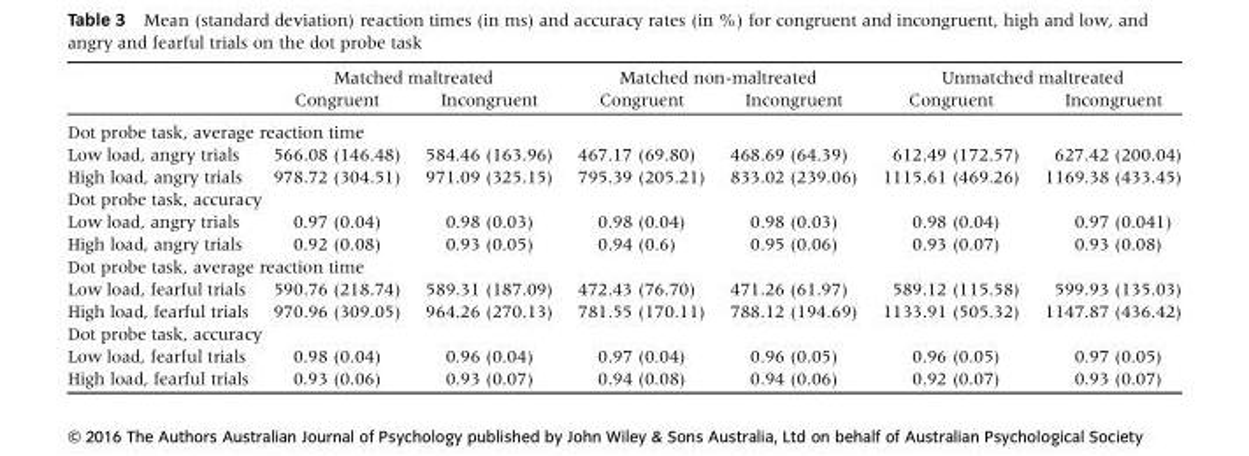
<table><thead><tr><td rowspan="2"></td><td colspan="2">Matched maltreated</td><td colspan="2">Matched non-maltreated</td><td colspan="2">Unmatched maltreated</td></tr><tr><td>Congruent</td><td>Incongruent</td><td>Congruent</td><td>Incongruent</td><td>Congruent</td><td>Incongruent</td></tr></thead><tbody><tr><td colspan="7">Dot probe task, average reaction time</td></tr><tr><td>Low load, angry trials</td><td>566.08 (146.48)</td><td>584.46 (163.96)</td><td>467.17 (69.80)</td><td>468.69 (64.39)</td><td>612.49 (172.57)</td><td>627.42 (200.04)</td></tr><tr><td>High load, angry trials</td><td>978.72 (304.51)</td><td>971.09 (325.15)</td><td>795.39 (205.21)</td><td>833.02 (239.06)</td><td>1115.61 (469.26)</td><td>1169.38 (433.45)</td></tr><tr><td colspan="7">Dot probe task, accuracy</td></tr><tr><td>Low load, angry trials</td><td>0.97 (0.04)</td><td>0.98 (0.03)</td><td>0.98 (0.04)</td><td>0.98 (0.03)</td><td>0.98 (0.04)</td><td>0.97 (0.041)</td></tr><tr><td>High load, angry trials</td><td>0.92 (0.08)</td><td>0.93 (0.05)</td><td>0.94 (0.6)</td><td>0.95 (0.06)</td><td>0.93 (0.07)</td><td>0.93 (0.08)</td></tr><tr><td colspan="7">Dot probe task, average reaction time</td></tr><tr><td>Low load, fearful trials</td><td>590.76 (218.74)</td><td>589.31 (187.09)</td><td>472.43 (76.70)</td><td>471.26 (61.97)</td><td>589.12 (115.58)</td><td>599.93 (135.03)</td></tr><tr><td>High load, fearful trials</td><td>970.96 (309.05)</td><td>964.26 (270.13)</td><td>781.55 (170.11)</td><td>788.12 (194.69)</td><td>1133.91 (505.32)</td><td>1147.87 (436.42)</td></tr><tr><td colspan="7">Dot probe task, accuracy</td></tr><tr><td>Low load, fearful trials</td><td>0.98 (0.04)</td><td>0.96 (0.04)</td><td>0.97 (0.04)</td><td>0.96 (0.05)</td><td>0.96 (0.05)</td><td>0.97 (0.05)</td></tr><tr><td>High load, fearful trials</td><td>0.93 (0.06)</td><td>0.93 (0.07)</td><td>0.94 (0.08)</td><td>0.94 (0.06)</td><td>0.92 (0.07)</td><td>0.93 (0.07)</td></tr></tbody></table>